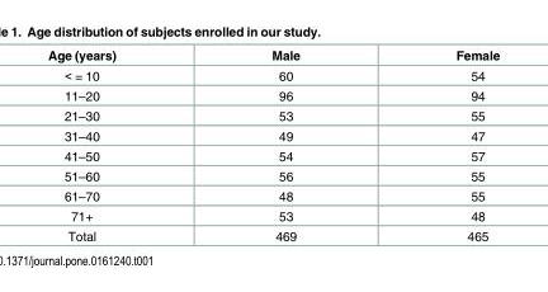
<table><thead><tr><td>Age (years)</td><td>Male</td><td>Female</td></tr></thead><tbody><tr><td>&lt; = 10</td><td>60</td><td>54</td></tr><tr><td>11–20</td><td>96</td><td>94</td></tr><tr><td>21–30</td><td>53</td><td>55</td></tr><tr><td>31–40</td><td>49</td><td>47</td></tr><tr><td>41–50</td><td>54</td><td>57</td></tr><tr><td>51–60</td><td>56</td><td>55</td></tr><tr><td>61–70</td><td>48</td><td>55</td></tr><tr><td>71+</td><td>53</td><td>48</td></tr><tr><td>Total</td><td>469</td><td>465</td></tr></tbody></table>